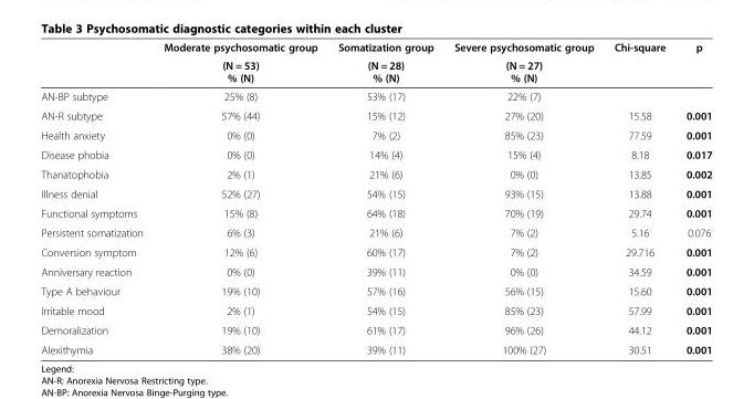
<table><thead><tr><td rowspan="2"></td><td rowspan="2">Moderate psychosomatic group (N = 53) % (N)</td><td rowspan="2">Somatization group (N = 28) % (N)</td><td rowspan="2">Severe psychosomatic group (N = 27) % (N)</td><td rowspan="2">Chi-square</td><td rowspan="2">p</td></tr><tr></tr></thead><tbody><tr><td>AN-BP subtype</td><td>25% (8)</td><td>53% (17)</td><td>22% (7)</td><td></td><td></td></tr><tr><td>AN-R subtype</td><td>57% (44)</td><td>15% (12)</td><td>27% (20)</td><td>15.58</td><td>0.001</td></tr><tr><td>Health anxiety</td><td>0% (0)</td><td>7% (2)</td><td>85% (23)</td><td>77.59</td><td>0.001</td></tr><tr><td>Disease phobia</td><td>0% (0)</td><td>14% (4)</td><td>15% (4)</td><td>8.18</td><td>0.017</td></tr><tr><td>Thanatophobia</td><td>2% (1)</td><td>21% (6)</td><td>0% (0)</td><td>13.85</td><td>0.002</td></tr><tr><td>Illness denial</td><td>52% (27)</td><td>54% (15)</td><td>93% (15)</td><td>13.88</td><td>0.001</td></tr><tr><td>Functional symptoms</td><td>15% (8)</td><td>64% (18)</td><td>70% (19)</td><td>29.74</td><td>0.001</td></tr><tr><td>Persistent somatization</td><td>6% (3)</td><td>21% (6)</td><td>7% (2)</td><td>5.16</td><td>0.076</td></tr><tr><td>Conversion symptom</td><td>12% (6)</td><td>60% (17)</td><td>7% (2)</td><td>29.716</td><td>0.001</td></tr><tr><td>Anniversary reaction</td><td>0% (0)</td><td>39% (11)</td><td>0% (0)</td><td>34.59</td><td>0.001</td></tr><tr><td>Type A behaviour</td><td>19% (10)</td><td>57% (16)</td><td>56% (15)</td><td>15.60</td><td>0.001</td></tr><tr><td>Irritable mood</td><td>2% (1)</td><td>54% (15)</td><td>85% (23)</td><td>57.99</td><td>0.001</td></tr><tr><td>Demoralization</td><td>19% (10)</td><td>61% (17)</td><td>96% (26)</td><td>44.12</td><td>0.001</td></tr><tr><td>Alexithymia</td><td>38% (20)</td><td>39% (11)</td><td>100% (27)</td><td>30.51</td><td>0.001</td></tr></tbody></table>